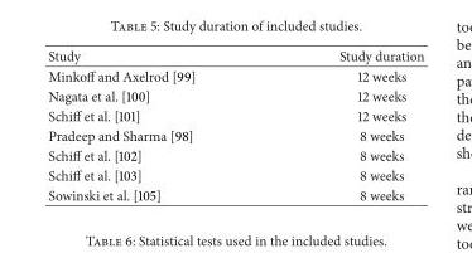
<table><thead><tr><td>Study</td><td>Study duration</td></tr></thead><tbody><tr><td>Minkoff and Axelrod [99]</td><td>12 weeks</td></tr><tr><td>Nagata et al. [100]</td><td>12 weeks</td></tr><tr><td>Schiff et al. [101]</td><td>12 weeks</td></tr><tr><td>Pradeep and Sharma [98]</td><td>8 weeks</td></tr><tr><td>Schiff et al. [102]</td><td>8 weeks</td></tr><tr><td>Schiff et al. [103]</td><td>8 weeks</td></tr><tr><td>Sowinski et al. [105]</td><td>8 weeks</td></tr></tbody></table>